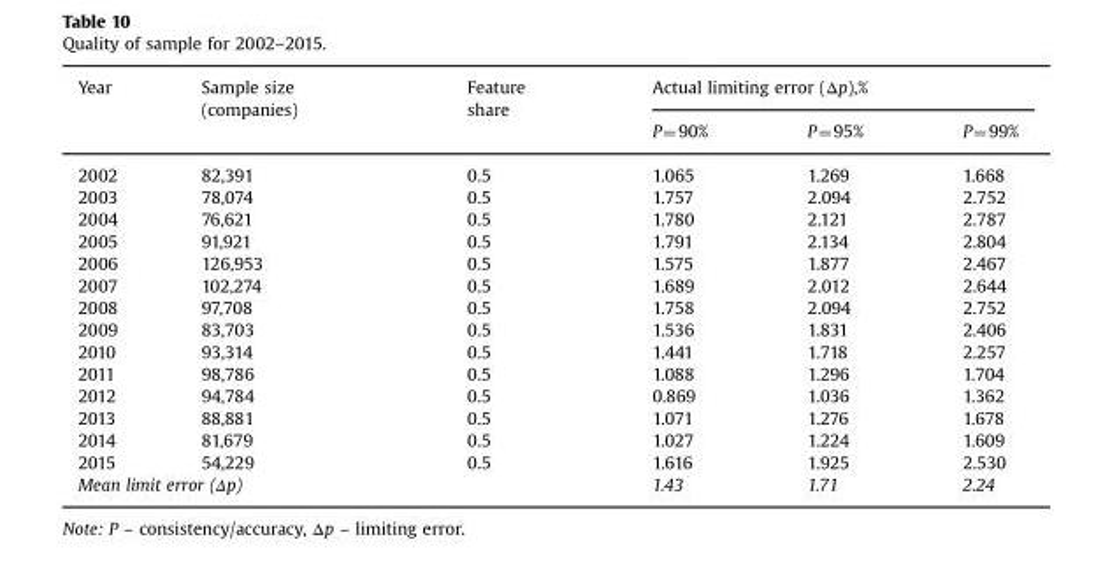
<table><thead><tr><td rowspan="2">Year</td><td rowspan="2">Sample size (companies)</td><td rowspan="2">Feature share</td><td colspan="3">Actual limiting error (Δp),%</td></tr><tr><td>P=90%</td><td>P=95%</td><td>P=99%</td></tr></thead><tbody><tr><td>2002</td><td>82,391</td><td>0.5</td><td>1.065</td><td>1.269</td><td>1.668</td></tr><tr><td>2003</td><td>78,074</td><td>0.5</td><td>1.757</td><td>2.094</td><td>2.752</td></tr><tr><td>2004</td><td>76,621</td><td>0.5</td><td>1.780</td><td>2.121</td><td>2.787</td></tr><tr><td>2005</td><td>91,921</td><td>0.5</td><td>1.791</td><td>2.134</td><td>2.804</td></tr><tr><td>2006</td><td>126,953</td><td>0.5</td><td>1.575</td><td>1.877</td><td>2.467</td></tr><tr><td>2007</td><td>102,274</td><td>0.5</td><td>1.689</td><td>2.012</td><td>2.644</td></tr><tr><td>2008</td><td>97,708</td><td>0.5</td><td>1.758</td><td>2.094</td><td>2.752</td></tr><tr><td>2009</td><td>83,703</td><td>0.5</td><td>1.536</td><td>1.831</td><td>2.406</td></tr><tr><td>2010</td><td>93,314</td><td>0.5</td><td>1.441</td><td>1.718</td><td>2.257</td></tr><tr><td>2011</td><td>98,786</td><td>0.5</td><td>1.088</td><td>1.296</td><td>1.704</td></tr><tr><td>2012</td><td>94,784</td><td>0.5</td><td>0.869</td><td>1.036</td><td>1.362</td></tr><tr><td>2013</td><td>88,881</td><td>0.5</td><td>1.071</td><td>1.276</td><td>1.678</td></tr><tr><td>2014</td><td>81,679</td><td>0.5</td><td>1.027</td><td>1.224</td><td>1.609</td></tr><tr><td>2015</td><td>54,229</td><td>0.5</td><td>1.616</td><td>1.925</td><td>2.530</td></tr><tr><td colspan="3">Mean limit error (Δp)</td><td>1.43</td><td>1.71</td><td>2.24</td></tr></tbody></table>